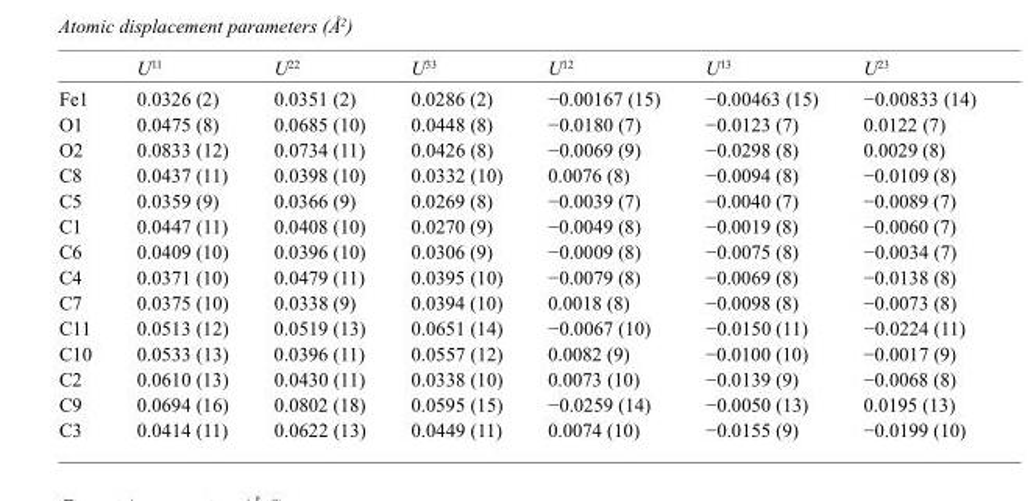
<table><thead><tr><td></td><td>U<sup>11</sup></td><td>U<sup>22</sup></td><td>U<sup>33</sup></td><td>U<sup>12</sup></td><td>U<sup>13</sup></td><td>U<sup>23</sup></td></tr></thead><tbody><tr><td>Fe1</td><td>0.0326 (2)</td><td>0.0351 (2)</td><td>0.0286 (2)</td><td>−0.00167 (15)</td><td>−0.00463 (15)</td><td>−0.00833 (14)</td></tr><tr><td>O1</td><td>0.0475 (8)</td><td>0.0685 (10)</td><td>0.0448 (8)</td><td>−0.0180 (7)</td><td>−0.0123 (7)</td><td>0.0122 (7)</td></tr><tr><td>O2</td><td>0.0833 (12)</td><td>0.0734 (11)</td><td>0.0426 (8)</td><td>−0.0069 (9)</td><td>−0.0298 (8)</td><td>0.0029 (8)</td></tr><tr><td>C8</td><td>0.0437 (11)</td><td>0.0398 (10)</td><td>0.0332 (10)</td><td>0.0076 (8)</td><td>−0.0094 (8)</td><td>−0.0109 (8)</td></tr><tr><td>C5</td><td>0.0359 (9)</td><td>0.0366 (9)</td><td>0.0269 (8)</td><td>−0.0039 (7)</td><td>−0.0040 (7)</td><td>−0.0089 (7)</td></tr><tr><td>C1</td><td>0.0447 (11)</td><td>0.0408 (10)</td><td>0.0270 (9)</td><td>−0.0049 (8)</td><td>−0.0019 (8)</td><td>−0.0060 (7)</td></tr><tr><td>C6</td><td>0.0409 (10)</td><td>0.0396 (10)</td><td>0.0306 (9)</td><td>−0.0009 (8)</td><td>−0.0075 (8)</td><td>−0.0034 (7)</td></tr><tr><td>C4</td><td>0.0371 (10)</td><td>0.0479 (11)</td><td>0.0395 (10)</td><td>−0.0079 (8)</td><td>−0.0069 (8)</td><td>−0.0138 (8)</td></tr><tr><td>C7</td><td>0.0375 (10)</td><td>0.0338 (9)</td><td>0.0394 (10)</td><td>0.0018 (8)</td><td>−0.0098 (8)</td><td>−0.0073 (8)</td></tr><tr><td>C11</td><td>0.0513 (12)</td><td>0.0519 (13)</td><td>0.0651 (14)</td><td>−0.0067 (10)</td><td>−0.0150 (11)</td><td>−0.0224 (11)</td></tr><tr><td>C10</td><td>0.0533 (13)</td><td>0.0396 (11)</td><td>0.0557 (12)</td><td>0.0082 (9)</td><td>−0.0100 (10)</td><td>−0.0017 (9)</td></tr><tr><td>C2</td><td>0.0610 (13)</td><td>0.0430 (11)</td><td>0.0338 (10)</td><td>0.0073 (10)</td><td>−0.0139 (9)</td><td>−0.0068 (8)</td></tr><tr><td>C9</td><td>0.0694 (16)</td><td>0.0802 (18)</td><td>0.0595 (15)</td><td>−0.0259 (14)</td><td>−0.0050 (13)</td><td>0.0195 (13)</td></tr><tr><td>C3</td><td>0.0414 (11)</td><td>0.0622 (13)</td><td>0.0449 (11)</td><td>0.0074 (10)</td><td>−0.0155 (9)</td><td>−0.0199 (10)</td></tr></tbody></table>